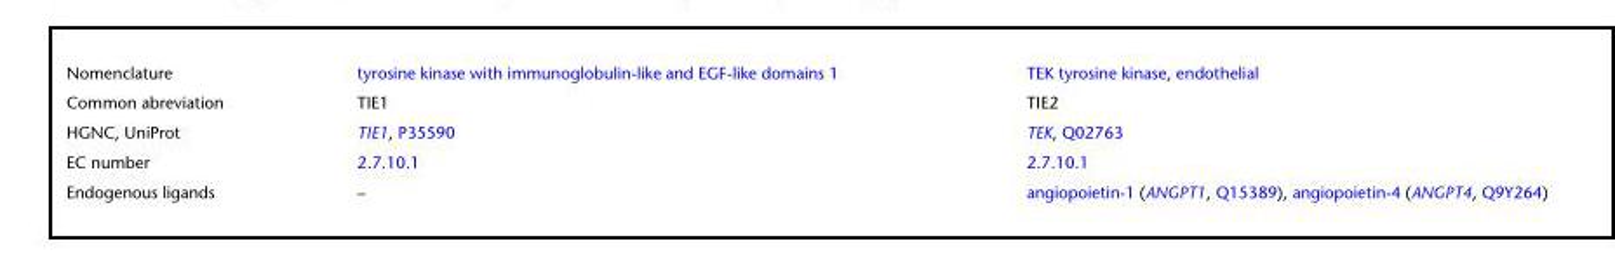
<table><tbody><tr><td>Nomenclature</td><td>tyrosine kinase with immunoglobulin-like and EGF-like domains 1</td><td>TEK tyrosine kinase, endothelial</td></tr><tr><td>Common abreviation</td><td>TIE1</td><td>TIE2</td></tr><tr><td>HGNC, UniProt</td><td>TIE1, P35590</td><td>TEK, Q02763</td></tr><tr><td>EC number</td><td>2.7.10.1</td><td>2.7.10.1</td></tr><tr><td>Endogenous ligands</td><td>–</td><td>angiopoietin-1 (ANGPT1, Q15389), angiopoietin-4 (ANGPT4, Q9Y264)</td></tr></tbody></table>